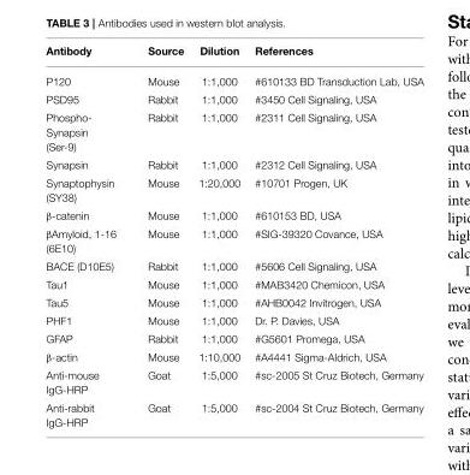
<table><thead><tr><td>Antibody</td><td>Source</td><td>Dilution</td><td>References</td></tr></thead><tbody><tr><td>P120</td><td>Mouse</td><td>1:1,000</td><td>#610133 BD Transduction Lab, USA</td></tr><tr><td>PSD95</td><td>Rabbit</td><td>1:1,000</td><td>#3450 Cell Signaling, USA</td></tr><tr><td>Phospho- Synapsin (Ser-9)</td><td>Rabbit</td><td>1:1,000</td><td>#2311 Cell Signaling, USA</td></tr><tr><td>Synapsin</td><td>Rabbit</td><td>1:1,000</td><td>#2312 Cell Signaling, USA</td></tr><tr><td>Synaptophysin (SY38)</td><td>Mouse</td><td>1:20,000</td><td>#10701 Progen, UK</td></tr><tr><td>β-catenin</td><td>Mouse</td><td>1:1,000</td><td>#610153 BD, USA</td></tr><tr><td>βAmyloid, 1-16 (6E10)</td><td>Mouse</td><td>1:1,000</td><td>#SIG-39320 Covance, USA</td></tr><tr><td>BACE (D10E5)</td><td>Rabbit</td><td>1:1,000</td><td>#5606 Cell Signaling, USA</td></tr><tr><td>Tau1</td><td>Mouse</td><td>1:1,000</td><td>#MAB3420 Chemicon, USA</td></tr><tr><td>Tau5</td><td>Mouse</td><td>1:1,000</td><td>#AHB0042 Invitrogen, USA</td></tr><tr><td>PHF1</td><td>Mouse</td><td>1:1,000</td><td>Dr. P. Davies, USA</td></tr><tr><td>GFAP</td><td>Rabbit</td><td>1:1,000</td><td>#G5601 Promega, USA</td></tr><tr><td>β-actin</td><td>Mouse</td><td>1:10,000</td><td>#A4441 Sigma-Aldrich, USA</td></tr><tr><td>Anti-mouse IgG-HRP</td><td>Goat</td><td>1:5,000</td><td>#sc-2005 St Cruz Biotech, Germany</td></tr><tr><td>Anti-rabbit IgG-HRP</td><td>Goat</td><td>1:5,000</td><td>#sc-2004 St Cruz Biotech, Germany</td></tr></tbody></table>